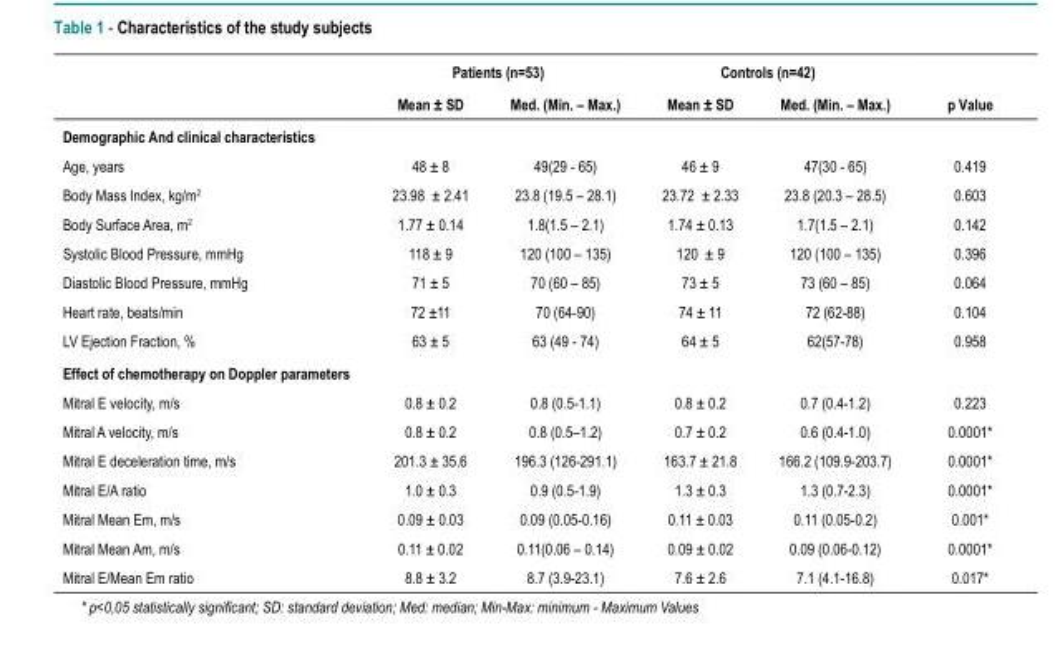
<table><thead><tr><td rowspan="2"></td><td colspan="2">Patients (n=53)</td><td colspan="2">Controls (n=42)</td><td rowspan="2">p Value</td></tr><tr><td>Mean ± SD</td><td>Med. (Min. – Max.)</td><td>Mean ± SD</td><td>Med. (Min. – Max.)</td></tr></thead><tbody><tr><td colspan="6">Demographic And clinical characteristics</td></tr><tr><td>Age, years</td><td>48 ± 8</td><td>49(29 - 65)</td><td>46 ± 9</td><td>47(30 - 65)</td><td>0.419</td></tr><tr><td>Body Mass Index, kg/m<sup>2</sup></td><td>23.98 ± 2.41</td><td>23.8 (19.5 – 28.1)</td><td>23.72 ± 2.33</td><td>23.8 (20.3 – 28.5)</td><td>0.603</td></tr><tr><td>Body Surface Area, m<sup>2</sup></td><td>1.77 ± 0.14</td><td>1.8(1.5 – 2.1)</td><td>1.74 ± 0.13</td><td>1.7(1.5 – 2.1)</td><td>0.142</td></tr><tr><td>Systolic Blood Pressure, mmHg</td><td>118 ± 9</td><td>120 (100 – 135)</td><td>120 ± 9</td><td>120 (100 – 135)</td><td>0.396</td></tr><tr><td>Diastolic Blood Pressure, mmHg</td><td>71 ± 5</td><td>70 (60 – 85)</td><td>73 ± 5</td><td>73 (60 – 85)</td><td>0.064</td></tr><tr><td>Heart rate, beats/min</td><td>72 ±11</td><td>70 (64-90)</td><td>74 ± 11</td><td>72 (62-88)</td><td>0.104</td></tr><tr><td>LV Ejection Fraction, %</td><td>63 ± 5</td><td>63 (49 - 74)</td><td>64 ± 5</td><td>62(57-78)</td><td>0.958</td></tr><tr><td colspan="6">Effect of chemotherapy on Doppler parameters</td></tr><tr><td>Mitral E velocity, m/s</td><td>0.8 ± 0.2</td><td>0.8 (0.5-1.1)</td><td>0.8 ± 0.2</td><td>0.7 (0.4-1.2)</td><td>0.223</td></tr><tr><td>Mitral A velocity, m/s</td><td>0.8 ± 0.2</td><td>0.8 (0.5–1.2)</td><td>0.7 ± 0.2</td><td>0.6 (0.4-1.0)</td><td>0.0001*</td></tr><tr><td>Mitral E deceleration time, m/s</td><td>201.3 ± 35.6</td><td>196.3 (126-291.1)</td><td>163.7 ± 21.8</td><td>166.2 (109.9-203.7)</td><td>0.0001*</td></tr><tr><td>Mitral E/A ratio</td><td>1.0 ± 0.3</td><td>0.9 (0.5-1.9)</td><td>1.3 ± 0.3</td><td>1.3 (0.7-2.3)</td><td>0.0001*</td></tr><tr><td>Mitral Mean Em, m/s</td><td>0.09 ± 0.03</td><td>0.09 (0.05-0.16)</td><td>0.11 ± 0.03</td><td>0.11 (0.05-0.2)</td><td>0.001*</td></tr><tr><td>Mitral Mean Am, m/s</td><td>0.11 ± 0.02</td><td>0.11(0.06 – 0.14)</td><td>0.09 ± 0.02</td><td>0.09 (0.06-0.12)</td><td>0.0001*</td></tr><tr><td>Mitral E/Mean Em ratio</td><td>8.8 ± 3.2</td><td>8.7 (3.9-23.1)</td><td>7.6 ± 2.6</td><td>7.1 (4.1-16.8)</td><td>0.017*</td></tr></tbody></table>